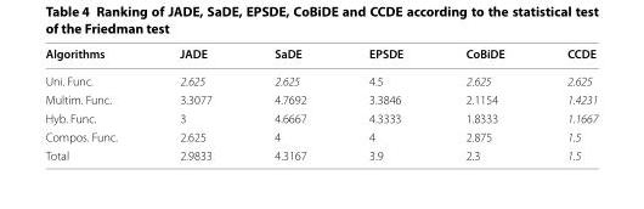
<table><thead><tr><td>Algorithms</td><td>JADE</td><td>SaDE</td><td>EPSDE</td><td>CoBiDE</td><td>CCDE</td></tr></thead><tbody><tr><td>Uni. Func.</td><td>2.625</td><td>2.625</td><td>4.5</td><td>2.625</td><td>2.625</td></tr><tr><td>Multim. Func.</td><td>3.3077</td><td>4.7692</td><td>3.3846</td><td>2.1154</td><td>1.4231</td></tr><tr><td>Hyb. Func.</td><td>3</td><td>4.6667</td><td>4.3333</td><td>1.8333</td><td>1.1667</td></tr><tr><td>Compos. Func.</td><td>2.625</td><td>4</td><td>4</td><td>2.875</td><td>1.5</td></tr><tr><td>Total</td><td>2.9833</td><td>4.3167</td><td>3.9</td><td>2.3</td><td>1.5</td></tr></tbody></table>